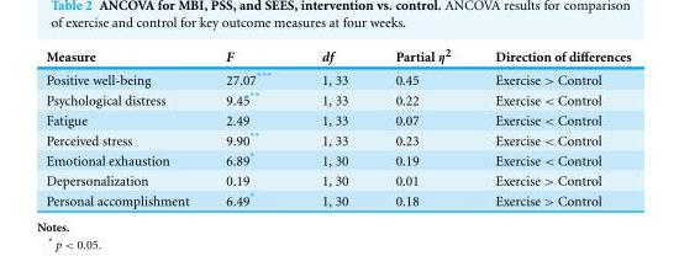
<table><thead><tr><td>Measure</td><td>F</td><td>df</td><td>Partial η<sup>2</sup></td><td>Direction of differences</td></tr></thead><tbody><tr><td>Positive well-being</td><td>27.07***</td><td>1, 33</td><td>0.45</td><td>Exercise &gt; Control</td></tr><tr><td>Psychological distress</td><td>9.45**</td><td>1, 33</td><td>0.22</td><td>Exercise &lt; Control</td></tr><tr><td>Fatigue</td><td>2.49</td><td>1, 33</td><td>0.07</td><td>Exercise &lt; Control</td></tr><tr><td>Perceived stress</td><td>9.90**</td><td>1, 33</td><td>0.23</td><td>Exercise &lt; Control</td></tr><tr><td>Emotional exhaustion</td><td>6.89*</td><td>1, 30</td><td>0.19</td><td>Exercise &lt; Control</td></tr><tr><td>Depersonalization</td><td>0.19</td><td>1, 30</td><td>0.01</td><td>Exercise &gt; Control</td></tr><tr><td>Personal accomplishment</td><td>6.49*</td><td>1, 30</td><td>0.18</td><td>Exercise &gt; Control</td></tr></tbody></table>